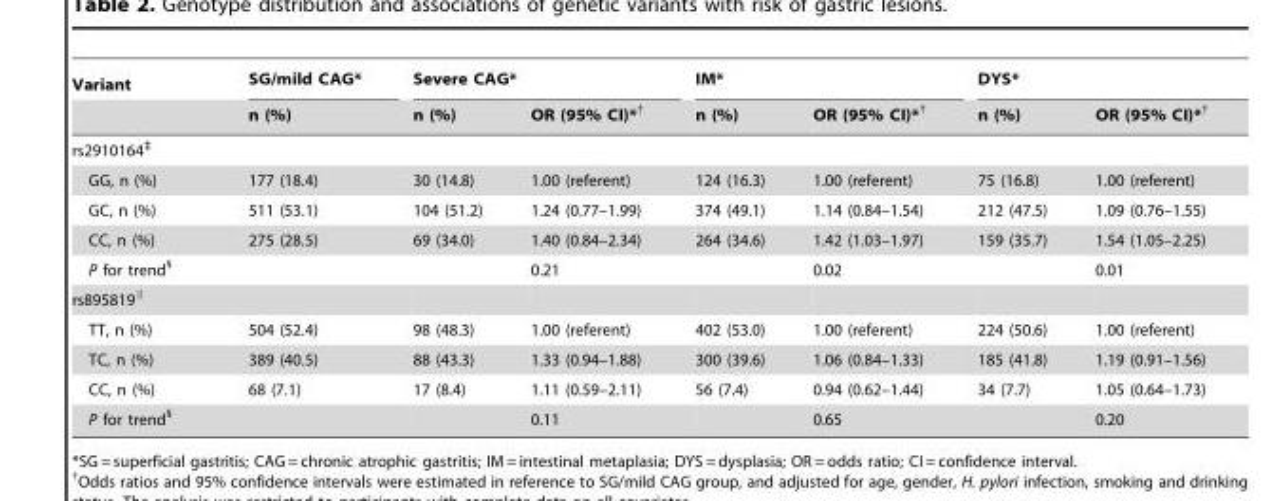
<table><thead><tr><td rowspan="2">Variant</td><td rowspan="2">SG/mild CAG* n (%)</td><td colspan="2">Severe CAG*</td><td colspan="2">IM*</td><td colspan="2">DYS*</td></tr><tr><td>n (%)</td><td>OR (95% CI)*†</td><td>n (%)</td><td>OR (95% CI)*†</td><td>n (%)</td><td>OR (95% CI)*†</td></tr></thead><tbody><tr><td colspan="8">rs2910164‡</td></tr><tr><td>GG, n (%)</td><td>177 (18.4)</td><td>30 (14.8)</td><td>1.00 (referent)</td><td>124 (16.3)</td><td>1.00 (referent)</td><td>75 (16.8)</td><td>1.00 (referent)</td></tr><tr><td>GC, n (%)</td><td>511 (53.1)</td><td>104 (51.2)</td><td>1.24 (0.77–1.99)</td><td>374 (49.1)</td><td>1.14 (0.84–1.54)</td><td>212 (47.5)</td><td>1.09 (0.76–1.55)</td></tr><tr><td>CC, n (%)</td><td>275 (28.5)</td><td>69 (34.0)</td><td>1.40 (0.84–2.34)</td><td>264 (34.6)</td><td>1.42 (1.03–1.97)</td><td>159 (35.7)</td><td>1.54 (1.05–2.25)</td></tr><tr><td>P for trend§</td><td></td><td></td><td>0.21</td><td></td><td>0.02</td><td></td><td>0.01</td></tr><tr><td colspan="8">rs895819∥</td></tr><tr><td>TT, n (%)</td><td>504 (52.4)</td><td>98 (48.3)</td><td>1.00 (referent)</td><td>402 (53.0)</td><td>1.00 (referent)</td><td>224 (50.6)</td><td>1.00 (referent)</td></tr><tr><td>TC, n (%)</td><td>389 (40.5)</td><td>88 (43.3)</td><td>1.33 (0.94–1.88)</td><td>300 (39.6)</td><td>1.06 (0.84–1.33)</td><td>185 (41.8)</td><td>1.19 (0.91–1.56)</td></tr><tr><td>CC, n (%)</td><td>68 (7.1)</td><td>17 (8.4)</td><td>1.11 (0.59–2.11)</td><td>56 (7.4)</td><td>0.94 (0.62–1.44)</td><td>34 (7.7)</td><td>1.05 (0.64–1.73)</td></tr><tr><td>P for trend§</td><td></td><td></td><td>0.11</td><td></td><td>0.65</td><td></td><td>0.20</td></tr></tbody></table>